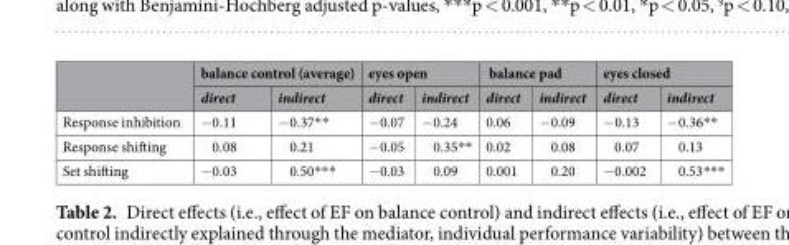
<table><thead><tr><td rowspan="2"></td><td colspan="2">balance control (average)</td><td colspan="2">eyes open</td><td colspan="2">balance pad</td><td colspan="2">eyes closed</td></tr><tr><td>direct</td><td>indirect</td><td>direct</td><td>indirect</td><td>direct</td><td>indirect</td><td>direct</td><td>indirect</td></tr></thead><tbody><tr><td>Response inhibition</td><td>−0.11</td><td>−0.37**</td><td>−0.07</td><td>−0.24</td><td>0.06</td><td>−0.09</td><td>−0.13</td><td>−0.36**</td></tr><tr><td>Response shifting</td><td>0.08</td><td>0.21</td><td>−0.05</td><td>0.35**</td><td>0.02</td><td>0.08</td><td>0.07</td><td>0.13</td></tr><tr><td>Set shifting</td><td>−0.03</td><td>0.50***</td><td>−0.03</td><td>0.09</td><td>0.001</td><td>0.20</td><td>−0.002</td><td>0.53***</td></tr></tbody></table>